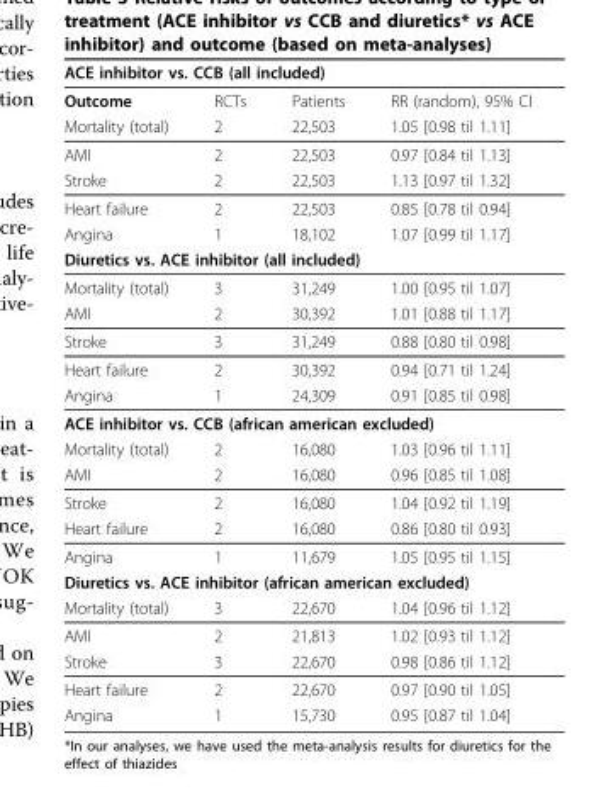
<table><thead><tr><td colspan="4">ACE inhibitor vs. CCB (all included)</td></tr><tr><td>Outcome</td><td>RCTs</td><td>Patients</td><td>RR (random), 95% CI</td></tr></thead><tbody><tr><td>Mortality (total)</td><td>2</td><td>22,503</td><td>1.05 [0.98 til 1.11]</td></tr><tr><td>AMI</td><td>2</td><td>22,503</td><td>0.97 [0.84 til 1.13]</td></tr><tr><td>Stroke</td><td>2</td><td>22,503</td><td>1.13 [0.97 til 1.32]</td></tr><tr><td>Heart failure</td><td>2</td><td>22,503</td><td>0.85 [0.78 til 0.94]</td></tr><tr><td>Angina</td><td>1</td><td>18,102</td><td>1.07 [0.99 til 1.17]</td></tr><tr><td colspan="4">Diuretics vs. ACE inhibitor (all included)</td></tr><tr><td>Mortality (total)</td><td>3</td><td>31,249</td><td>1.00 [0.95 til 1.07]</td></tr><tr><td>AMI</td><td>2</td><td>30,392</td><td>1.01 [0.88 til 1.17]</td></tr><tr><td>Stroke</td><td>3</td><td>31,249</td><td>0.88 [0.80 til 0.98]</td></tr><tr><td>Heart failure</td><td>2</td><td>30,392</td><td>0.94 [0.71 til 1.24]</td></tr><tr><td>Angina</td><td>1</td><td>24,309</td><td>0.91 [0.85 til 0.98]</td></tr><tr><td colspan="4">ACE inhibitor vs. CCB (african american excluded)</td></tr><tr><td>Mortality (total)</td><td>2</td><td>16,080</td><td>1.03 [0.96 til 1.11]</td></tr><tr><td>AMI</td><td>2</td><td>16,080</td><td>0.96 [0.85 til 1.08]</td></tr><tr><td>Stroke</td><td>2</td><td>16,080</td><td>1.04 [0.92 til 1.19]</td></tr><tr><td>Heart failure</td><td>2</td><td>16,080</td><td>0.86 [0.80 til 0.93]</td></tr><tr><td>Angina</td><td>1</td><td>11,679</td><td>1.05 [0.95 til 1.15]</td></tr><tr><td colspan="4">Diuretics vs. ACE inhibitor (african american excluded)</td></tr><tr><td>Mortality (total)</td><td>3</td><td>22,670</td><td>1.04 [0.96 til 1.12]</td></tr><tr><td>AMI</td><td>2</td><td>21,813</td><td>1.02 [0.93 til 1.12]</td></tr><tr><td>Stroke</td><td>3</td><td>22,670</td><td>0.98 [0.86 til 1.12]</td></tr><tr><td>Heart failure</td><td>2</td><td>22,670</td><td>0.97 [0.90 til 1.05]</td></tr><tr><td>Angina</td><td>1</td><td>15,730</td><td>0.95 [0.87 til 1.04]</td></tr></tbody></table>